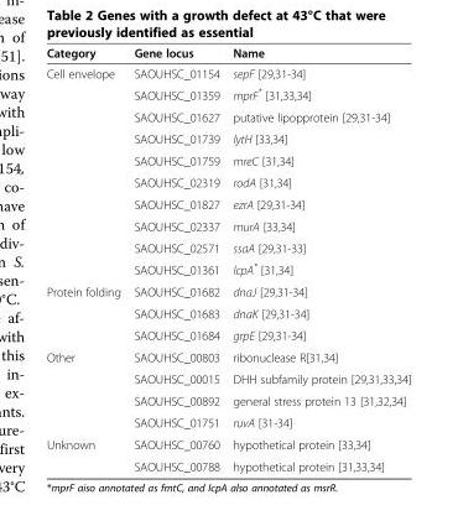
<table><thead><tr><td>Category</td><td>Gene locus</td><td>Name</td></tr></thead><tbody><tr><td rowspan="10">Cell envelope</td><td>SAOUHSC_01154</td><td>sepF [29,31-34]</td></tr><tr><td>SAOUHSC_01359</td><td>mprF* [31,33,34]</td></tr><tr><td>SAOUHSC_01627</td><td>putative lipopprotein [29,31-34]</td></tr><tr><td>SAOUHSC_01739</td><td>lytH [33,34]</td></tr><tr><td>SAOUHSC_01759</td><td>mreC [31,34]</td></tr><tr><td>SAOUHSC_02319</td><td>rodA [31,34]</td></tr><tr><td>SAOUHSC_01827</td><td>ezrA [29,31-34]</td></tr><tr><td>SAOUHSC_02337</td><td>murA [33,34]</td></tr><tr><td>SAOUHSC_02571</td><td>ssaA [29,31-33]</td></tr><tr><td>SAOUHSC_01361</td><td>lcpA* [31,34]</td></tr><tr><td rowspan="3">Protein folding</td><td>SAOUHSC_01682</td><td>dnaJ [29,31-34]</td></tr><tr><td>SAOUHSC_01683</td><td>dnaK [29,31-34]</td></tr><tr><td>SAOUHSC_01684</td><td>grpE [29,31-34]</td></tr><tr><td rowspan="4">Other</td><td>SAOUHSC_00803</td><td>ribonuclease R[31,34]</td></tr><tr><td>SAOUHSC_00015</td><td>DHH subfamily protein [29,31,33,34]</td></tr><tr><td>SAOUHSC_00892</td><td>general stress protein 13 [31,32,34]</td></tr><tr><td>SAOUHSC_01751</td><td>ruvA [31-34]</td></tr><tr><td rowspan="2">Unknown</td><td>SAOUHSC_00760</td><td>hypothetical protein [33,34]</td></tr><tr><td>SAOUHSC_00788</td><td>hypothetical protein [31,33,34]</td></tr></tbody></table>